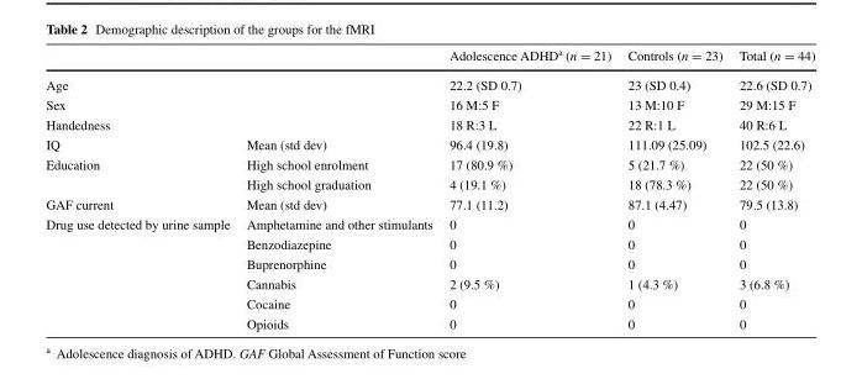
<table><thead><tr><td></td><td></td><td>Adolescence ADHD<sup>a</sup> (n = 21)</td><td>Controls (n = 23)</td><td>Total (n = 44)</td></tr></thead><tbody><tr><td>Age</td><td></td><td>22.2 (SD 0.7)</td><td>23 (SD 0.4)</td><td>22.6 (SD 0.7)</td></tr><tr><td>Sex</td><td></td><td>16 M:5 F</td><td>13 M:10 F</td><td>29 M:15 F</td></tr><tr><td>Handedness</td><td></td><td>18 R:3 L</td><td>22 R:1 L</td><td>40 R:6 L</td></tr><tr><td>IQ</td><td>Mean (std dev)</td><td>96.4 (19.8)</td><td>111.09 (25.09)</td><td>102.5 (22.6)</td></tr><tr><td rowspan="2">Education</td><td>High school enrolment</td><td>17 (80.9 %)</td><td>5 (21.7 %)</td><td>22 (50 %)</td></tr><tr><td>High school graduation</td><td>4 (19.1 %)</td><td>18 (78.3 %)</td><td>22 (50 %)</td></tr><tr><td>GAF current</td><td>Mean (std dev)</td><td>77.1 (11.2)</td><td>87.1 (4.47)</td><td>79.5 (13.8)</td></tr><tr><td rowspan="6">Drug use detected by urine sample</td><td>Amphetamine and other stimulants</td><td>0</td><td>0</td><td>0</td></tr><tr><td>Benzodiazepine</td><td>0</td><td>0</td><td>0</td></tr><tr><td>Buprenorphine</td><td>0</td><td>0</td><td>0</td></tr><tr><td>Cannabis</td><td>2 (9.5 %)</td><td>1 (4.3 %)</td><td>3 (6.8 %)</td></tr><tr><td>Cocaine</td><td>0</td><td>0</td><td>0</td></tr><tr><td>Opioids</td><td>0</td><td>0</td><td>0</td></tr></tbody></table>